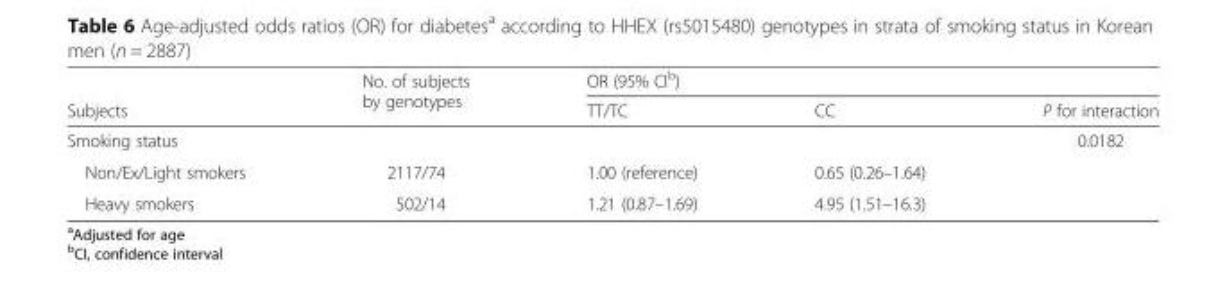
<table><thead><tr><td rowspan="2">Subjects</td><td rowspan="2">No. of subjects by genotypes</td><td colspan="3">OR (95% CI<sup>b</sup>)</td></tr><tr><td>TT/TC</td><td>CC</td><td>P for interaction</td></tr></thead><tbody><tr><td>Smoking status</td><td></td><td></td><td></td><td>0.0182</td></tr><tr><td>Non/Ex/Light smokers</td><td>2117/74</td><td>1.00 (reference)</td><td>0.65 (0.26–1.64)</td><td></td></tr><tr><td>Heavy smokers</td><td>502/14</td><td>1.21 (0.87–1.69)</td><td>4.95 (1.51–16.3)</td><td></td></tr></tbody></table>